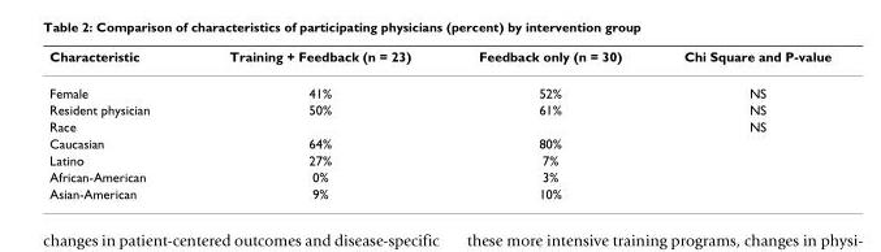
<table><thead><tr><td>Characteristic</td><td>Training + Feedback (n = 23)</td><td>Feedback only (n = 30)</td><td>Chi Square and P-value</td></tr></thead><tbody><tr><td>Female</td><td>41%</td><td>52%</td><td>NS</td></tr><tr><td>Resident physician</td><td>50%</td><td>61%</td><td>NS</td></tr><tr><td>Race</td><td></td><td></td><td>NS</td></tr><tr><td>Caucasian</td><td>64%</td><td>80%</td><td></td></tr><tr><td>Latino</td><td>27%</td><td>7%</td><td></td></tr><tr><td>African-American</td><td>0%</td><td>3%</td><td></td></tr><tr><td>Asian-American</td><td>9%</td><td>10%</td><td></td></tr></tbody></table>